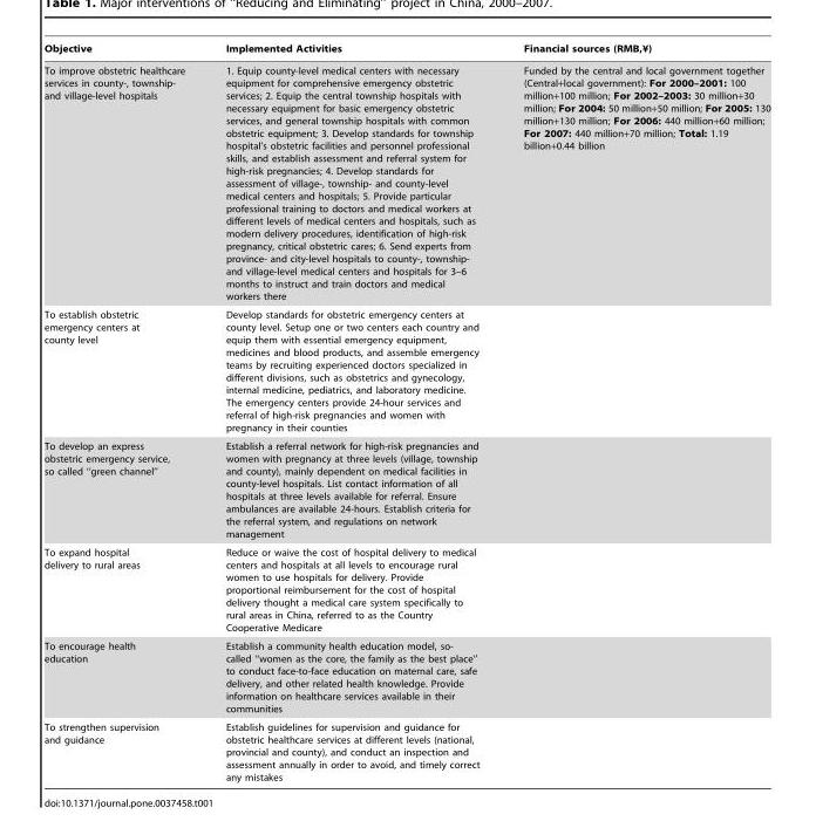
<table><thead><tr><td>Objective</td><td>Implemented Activities</td><td>Financial sources (RMB,¥)</td></tr></thead><tbody><tr><td>To improve obstetric healthcare services in county-, township- and village-level hospitals</td><td>1. Equip county-level medical centers with necessary equipment for comprehensive emergency obstetric services; 2. Equip the central township hospitals with necessary equipment for basic emergency obstetric services, and general township hospitals with common obstetric equipment; 3. Develop standards for township hospital’s obstetric facilities and personnel professional skills, and establish assessment and referral system for high-risk pregnancies; 4. Develop standards for assessment of village-, township- and county-level medical centers and hospitals; 5. Provide particular professional training to doctors and medical workers at different levels of medical centers and hospitals, such as modern delivery procedures, identification of high-risk pregnancy, critical obstetric cares; 6. Send experts from province- and city-level hospitals to county-, township- and village-level medical centers and hospitals for 3–6 months to instruct and train doctors and medical workers there</td><td>Funded by the central and local government together (Central+local government): For 2000–2001: 100 million+100 million; For 2002–2003: 30 million+30 million; For 2004: 50 million+50 million; For 2005: 130 million+130 million; For 2006: 440 million+60 million; For 2007: 440 million+70 million; Total: 1.19 billion+0.44 billion</td></tr><tr><td>To establish obstetric emergency centers at county level</td><td>Develop standards for obstetric emergency centers at county level. Setup one or two centers each country and equip them with essential emergency equipment, medicines and blood products, and assemble emergency teams by recruiting experienced doctors specialized in different divisions, such as obstetrics and gynecology, internal medicine, pediatrics, and laboratory medicine. The emergency centers provide 24-hour services and referral of high-risk pregnancies and women with pregnancy in their counties</td><td></td></tr><tr><td>To develop an express obstetric emergency service, so called ‘‘green channel’’</td><td>Establish a referral network for high-risk pregnancies and women with pregnancy at three levels (village, township and county), mainly dependent on medical facilities in county-level hospitals. List contact information of all hospitals at three levels available for referral. Ensure ambulances are available 24-hours. Establish criteria for the referral system, and regulations on network management</td><td></td></tr><tr><td>To expand hospital delivery to rural areas</td><td>Reduce or waive the cost of hospital delivery to medical centers and hospitals at all levels to encourage rural women to use hospitals for delivery. Provide proportional reimbursement for the cost of hospital delivery thought a medical care system specifically to rural areas in China, referred to as the Country Cooperative Medicare</td><td></td></tr><tr><td>To encourage health education</td><td>Establish a community health education model, so- called ‘‘women as the core, the family as the best place’’ to conduct face-to-face education on maternal care, safe delivery, and other related health knowledge. Provide information on healthcare services available in their communities</td><td></td></tr><tr><td>To strengthen supervision and guidance</td><td>Establish guidelines for supervision and guidance for obstetric healthcare services at different levels (national, provincial and county), and conduct an inspection and assessment annually in order to avoid, and timely correct any mistakes</td><td></td></tr></tbody></table>